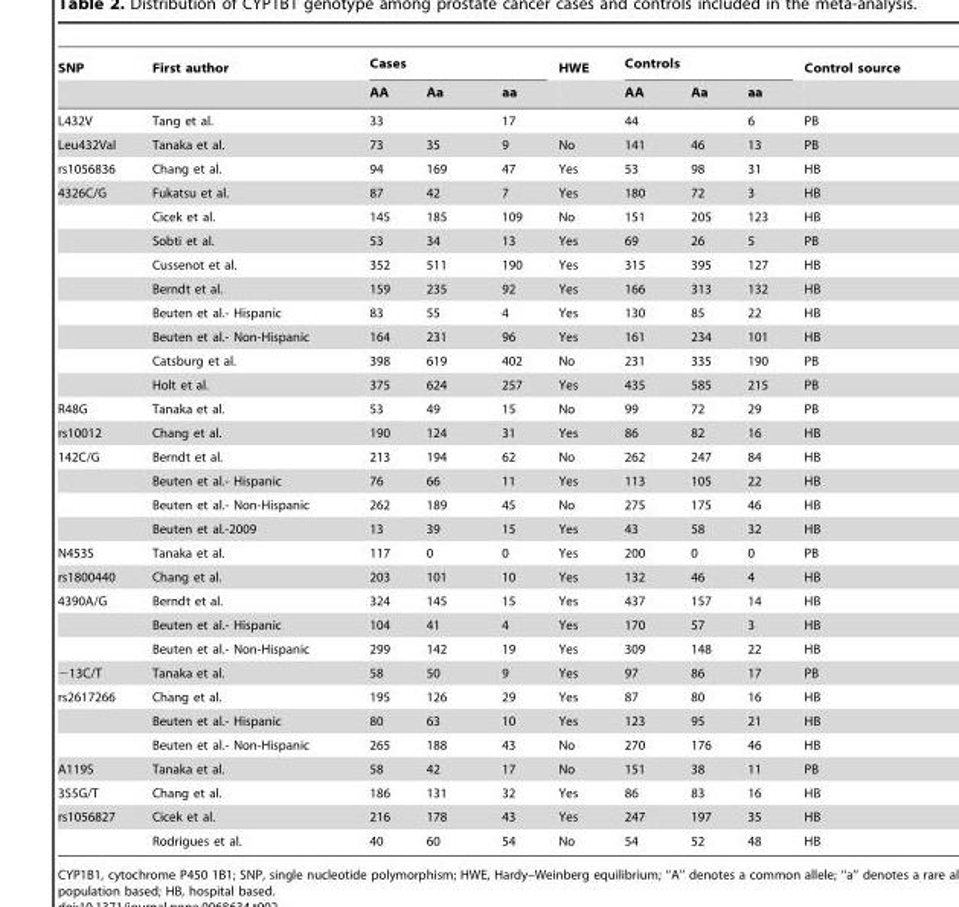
<table><thead><tr><td rowspan="2">SNP</td><td rowspan="2">First author</td><td colspan="3">Cases</td><td rowspan="2">HWE</td><td colspan="3">Controls</td><td rowspan="2">Control source</td></tr><tr><td>AA</td><td>Aa</td><td>aa</td><td>AA</td><td>Aa</td><td>aa</td></tr></thead><tbody><tr><td>L432V</td><td>Tang et al.</td><td colspan="2">33</td><td>17</td><td></td><td colspan="2">44</td><td>6</td><td>PB</td></tr><tr><td>Leu432Val</td><td>Tanaka et al.</td><td>73</td><td>35</td><td>9</td><td>No</td><td>141</td><td>46</td><td>13</td><td>PB</td></tr><tr><td>rs1056836</td><td>Chang et al.</td><td>94</td><td>169</td><td>47</td><td>Yes</td><td>53</td><td>98</td><td>31</td><td>HB</td></tr><tr><td rowspan="9">4326C/G</td><td>Fukatsu et al.</td><td>87</td><td>42</td><td>7</td><td>Yes</td><td>180</td><td>72</td><td>3</td><td>HB</td></tr><tr><td>Cicek et al.</td><td>145</td><td>185</td><td>109</td><td>No</td><td>151</td><td>205</td><td>123</td><td>HB</td></tr><tr><td>Sobti et al.</td><td>53</td><td>34</td><td>13</td><td>Yes</td><td>69</td><td>26</td><td>5</td><td>PB</td></tr><tr><td>Cussenot et al.</td><td>352</td><td>511</td><td>190</td><td>Yes</td><td>315</td><td>395</td><td>127</td><td>HB</td></tr><tr><td>Berndt et al.</td><td>159</td><td>235</td><td>92</td><td>Yes</td><td>166</td><td>313</td><td>132</td><td>HB</td></tr><tr><td>Beuten et al.- Hispanic</td><td>83</td><td>55</td><td>4</td><td>Yes</td><td>130</td><td>85</td><td>22</td><td>HB</td></tr><tr><td>Beuten et al.- Non-Hispanic</td><td>164</td><td>231</td><td>96</td><td>Yes</td><td>161</td><td>234</td><td>101</td><td>HB</td></tr><tr><td>Catsburg et al.</td><td>398</td><td>619</td><td>402</td><td>No</td><td>231</td><td>335</td><td>190</td><td>PB</td></tr><tr><td>Holt et al.</td><td>375</td><td>624</td><td>257</td><td>Yes</td><td>435</td><td>585</td><td>215</td><td>PB</td></tr><tr><td>R48G</td><td>Tanaka et al.</td><td>53</td><td>49</td><td>15</td><td>No</td><td>99</td><td>72</td><td>29</td><td>PB</td></tr><tr><td>rs10012</td><td>Chang et al.</td><td>190</td><td>124</td><td>31</td><td>Yes</td><td>86</td><td>82</td><td>16</td><td>HB</td></tr><tr><td rowspan="4">142C/G</td><td>Berndt et al.</td><td>213</td><td>194</td><td>62</td><td>No</td><td>262</td><td>247</td><td>84</td><td>HB</td></tr><tr><td>Beuten et al.- Hispanic</td><td>76</td><td>66</td><td>11</td><td>Yes</td><td>113</td><td>105</td><td>22</td><td>HB</td></tr><tr><td>Beuten et al.- Non-Hispanic</td><td>262</td><td>189</td><td>45</td><td>No</td><td>275</td><td>175</td><td>46</td><td>HB</td></tr><tr><td>Beuten et al.-2009</td><td>13</td><td>39</td><td>15</td><td>Yes</td><td>43</td><td>58</td><td>32</td><td>HB</td></tr><tr><td>N453S</td><td>Tanaka et al.</td><td>117</td><td>0</td><td>0</td><td>Yes</td><td>200</td><td>0</td><td>0</td><td>PB</td></tr><tr><td>rs1800440</td><td>Chang et al.</td><td>203</td><td>101</td><td>10</td><td>Yes</td><td>132</td><td>46</td><td>4</td><td>HB</td></tr><tr><td rowspan="3">4390A/G</td><td>Berndt et al.</td><td>324</td><td>145</td><td>15</td><td>Yes</td><td>437</td><td>157</td><td>14</td><td>HB</td></tr><tr><td>Beuten et al.- Hispanic</td><td>104</td><td>41</td><td>4</td><td>Yes</td><td>170</td><td>57</td><td>3</td><td>HB</td></tr><tr><td>Beuten et al.- Non-Hispanic</td><td>299</td><td>142</td><td>19</td><td>Yes</td><td>309</td><td>148</td><td>22</td><td>HB</td></tr><tr><td>−13C/T</td><td>Tanaka et al.</td><td>58</td><td>50</td><td>9</td><td>Yes</td><td>97</td><td>86</td><td>17</td><td>PB</td></tr><tr><td rowspan="3">rs2617266</td><td>Chang et al.</td><td>195</td><td>126</td><td>29</td><td>Yes</td><td>87</td><td>80</td><td>16</td><td>HB</td></tr><tr><td>Beuten et al.- Hispanic</td><td>80</td><td>63</td><td>10</td><td>Yes</td><td>123</td><td>95</td><td>21</td><td>HB</td></tr><tr><td>Beuten et al.- Non-Hispanic</td><td>265</td><td>188</td><td>43</td><td>No</td><td>270</td><td>176</td><td>46</td><td>HB</td></tr><tr><td>A119S</td><td>Tanaka et al.</td><td>58</td><td>42</td><td>17</td><td>No</td><td>151</td><td>38</td><td>11</td><td>PB</td></tr><tr><td>355G/T</td><td>Chang et al.</td><td>186</td><td>131</td><td>32</td><td>Yes</td><td>86</td><td>83</td><td>16</td><td>HB</td></tr><tr><td rowspan="2">rs1056827</td><td>Cicek et al.</td><td>216</td><td>178</td><td>43</td><td>Yes</td><td>247</td><td>197</td><td>35</td><td>HB</td></tr><tr><td>Rodrigues et al.</td><td>40</td><td>60</td><td>54</td><td>No</td><td>54</td><td>52</td><td>48</td><td>HB</td></tr></tbody></table>